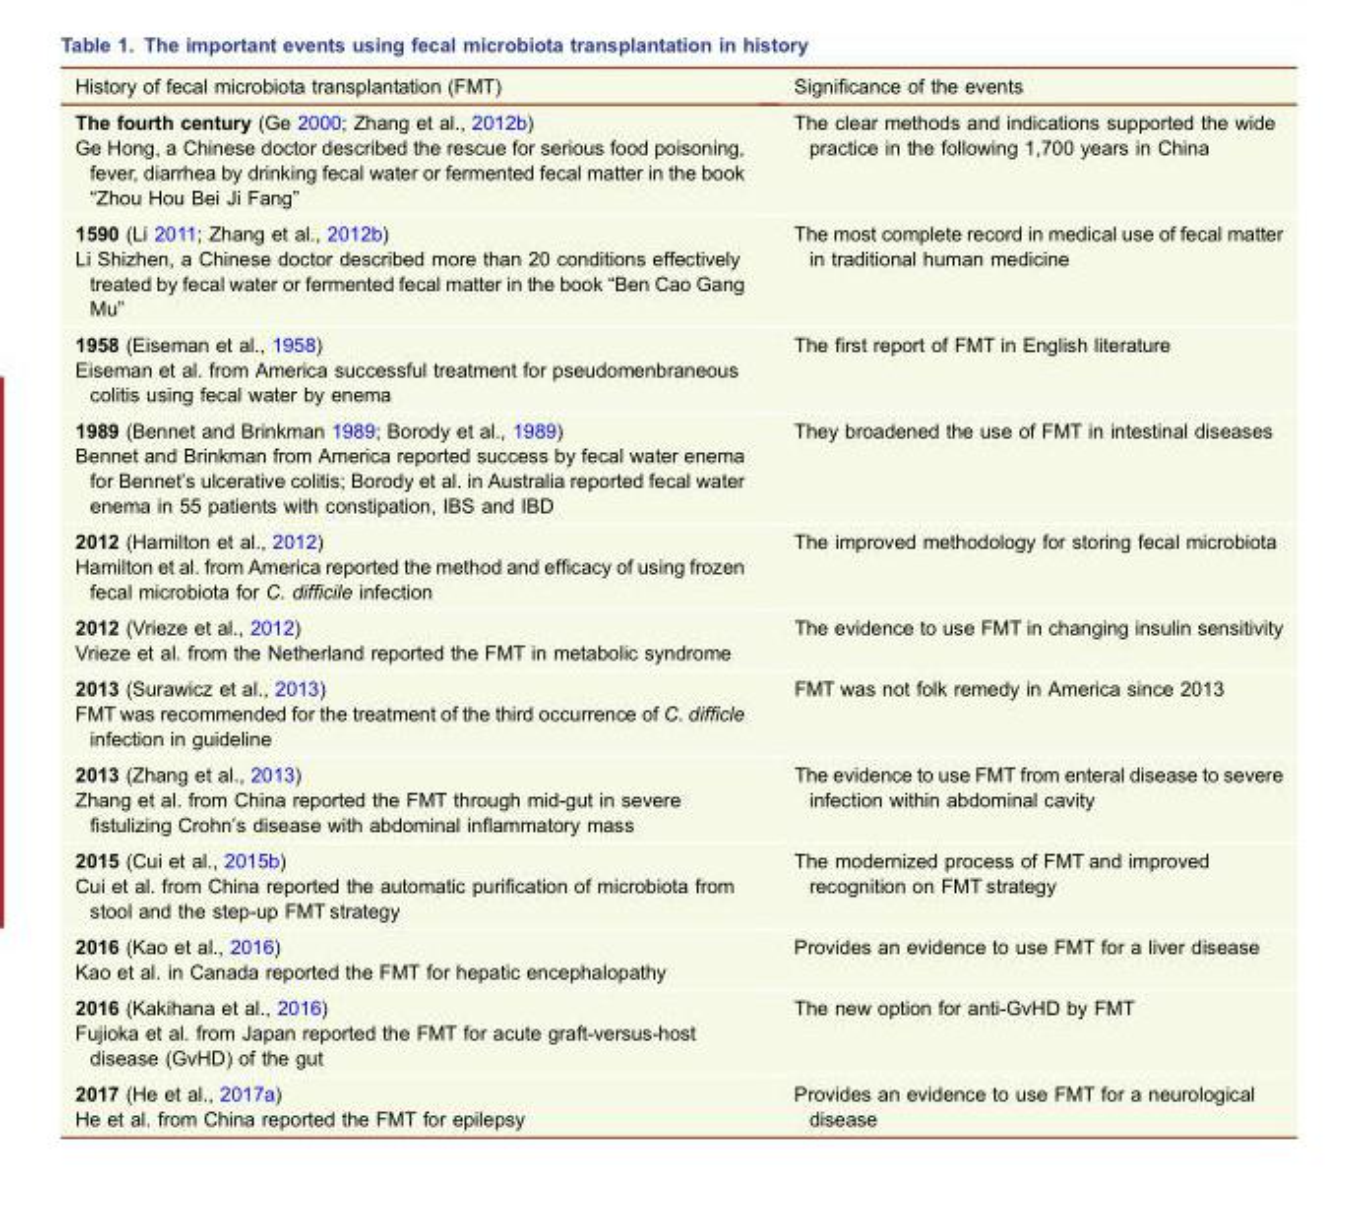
<table><thead><tr><td>History of fecal microbiota transplantation (FMT)</td><td>Significance of the events</td></tr></thead><tbody><tr><td>The fourth century (Ge 2000; Zhang et al., 2012b) Ge Hong, a Chinese doctor described the rescue for serious food poisoning, fever, diarrhea by drinking fecal water or fermented fecal matter in the book “Zhou Hou Bei Ji Fang”</td><td>The clear methods and indications supported the wide practice in the following 1,700 years in China</td></tr><tr><td>1590 (Li 2011; Zhang et al., 2012b) Li Shizhen, a Chinese doctor described more than 20 conditions effectively treated by fecal water or fermented fecal matter in the book “Ben Cao Gang Mu”</td><td>The most complete record in medical use of fecal matter in traditional human medicine</td></tr><tr><td>1958 (Eiseman et al., 1958) Eiseman et al. from America successful treatment for pseudomenbraneous colitis using fecal water by enema</td><td>The first report of FMT in English literature</td></tr><tr><td>1989 (Bennet and Brinkman 1989; Borody et al., 1989) Bennet and Brinkman from America reported success by fecal water enema for Bennet’s ulcerative colitis; Borody et al. in Australia reported fecal water enema in 55 patients with constipation, IBS and IBD</td><td>They broadened the use of FMT in intestinal diseases</td></tr><tr><td>2012 (Hamilton et al., 2012) Hamilton et al. from America reported the method and efficacy of using frozen fecal microbiota for C. difficile infection</td><td>The improved methodology for storing fecal microbiota</td></tr><tr><td>2012 (Vrieze et al., 2012) Vrieze et al. from the Netherland reported the FMT in metabolic syndrome</td><td>The evidence to use FMT in changing insulin sensitivity</td></tr><tr><td>2013 (Surawicz et al., 2013) FMT was recommended for the treatment of the third occurrence of C. difficle infection in guideline</td><td>FMT was not folk remedy in America since 2013</td></tr><tr><td>2013 (Zhang et al., 2013) Zhang et al. from China reported the FMT through mid-gut in severe fistulizing Crohn’s disease with abdominal inflammatory mass</td><td>The evidence to use FMT from enteral disease to severe infection within abdominal cavity</td></tr><tr><td>2015 (Cui et al., 2015b) Cui et al. from China reported the automatic purification of microbiota from stool and the step-up FMT strategy</td><td>The modernized process of FMT and improved recognition on FMT strategy</td></tr><tr><td>2016 (Kao et al., 2016) Kao et al. in Canada reported the FMT for hepatic encephalopathy</td><td>Provides an evidence to use FMT for a liver disease</td></tr><tr><td>2016 (Kakihana et al., 2016) Fujioka et al. from Japan reported the FMT for acute graft-versus-host disease (GvHD) of the gut</td><td>The new option for anti-GvHD by FMT</td></tr><tr><td>2017 (He et al., 2017a) He et al. from China reported the FMT for epilepsy</td><td>Provides an evidence to use FMT for a neurological disease</td></tr></tbody></table>